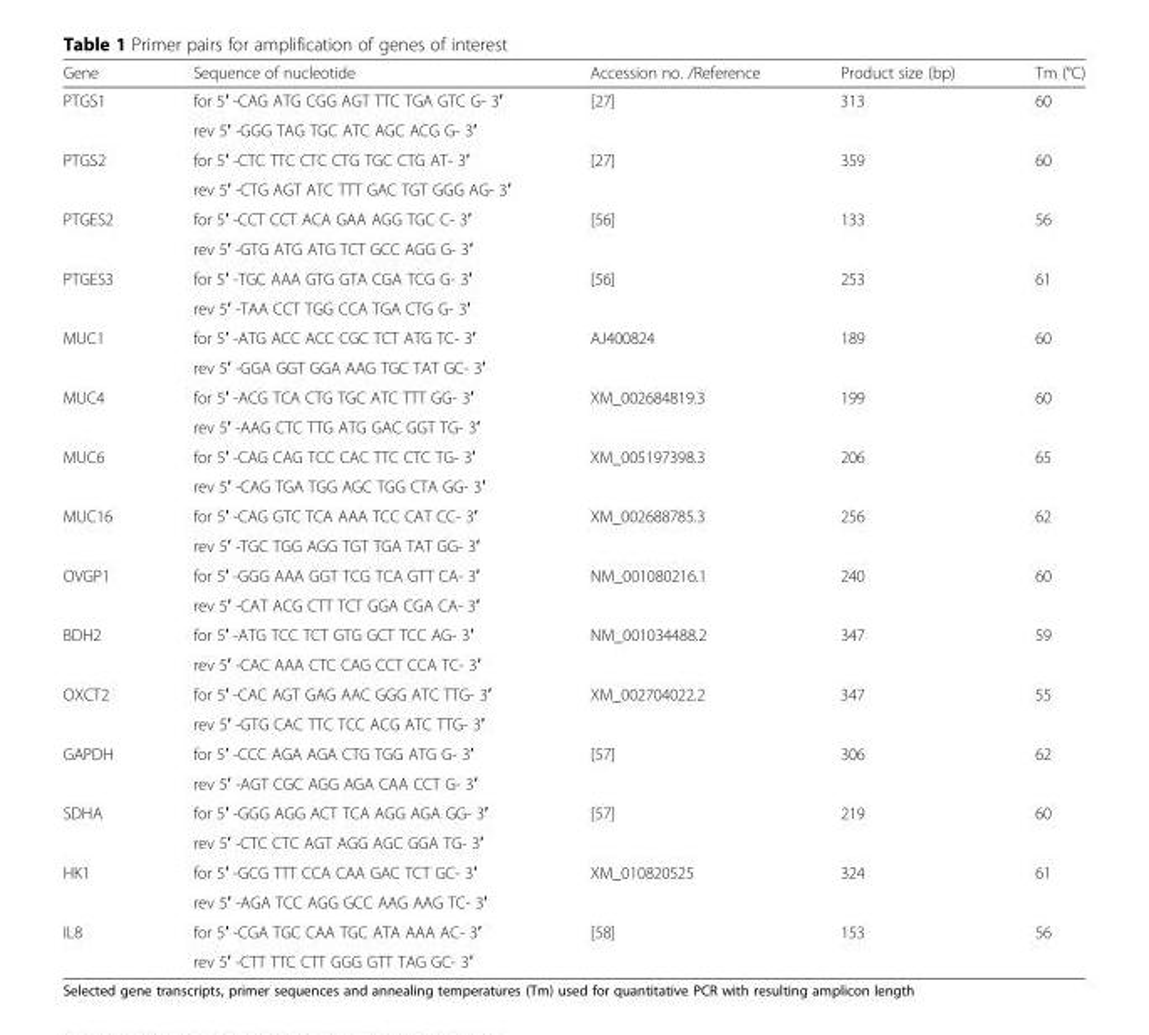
<table><thead><tr><td>Gene</td><td>Sequence of nucleotide</td><td>Accession no. /Reference</td><td>Product size (bp)</td><td>Tm (°C)</td></tr></thead><tbody><tr><td rowspan="2">PTGS1</td><td>for 5′ -CAG ATG CGG AGT TTC TGA GTC G- 3′</td><td rowspan="2">[27]</td><td rowspan="2">313</td><td rowspan="2">60</td></tr><tr><td>rev 5′ -GGG TAG TGC ATC AGC ACG G- 3′</td></tr><tr><td rowspan="2">PTGS2</td><td>for 5′ -CTC TTC CTC CTG TGC CTG AT- 3′</td><td rowspan="2">[27]</td><td rowspan="2">359</td><td rowspan="2">60</td></tr><tr><td>rev 5′ -CTG AGT ATC TTT GAC TGT GGG AG- 3′</td></tr><tr><td rowspan="2">PTGES2</td><td>for 5′ -CCT CCT ACA GAA AGG TGC C- 3′</td><td rowspan="2">[56]</td><td rowspan="2">133</td><td rowspan="2">56</td></tr><tr><td>rev 5′ -GTG ATG ATG TCT GCC AGG G- 3′</td></tr><tr><td rowspan="2">PTGES3</td><td>for 5′ -TGC AAA GTG GTA CGA TCG G- 3′</td><td rowspan="2">[56]</td><td rowspan="2">253</td><td rowspan="2">61</td></tr><tr><td>rev 5′ -TAA CCT TGG CCA TGA CTG G- 3′</td></tr><tr><td rowspan="2">MUC1</td><td>for 5′ -ATG ACC ACC CGC TCT ATG TC- 3′</td><td rowspan="2">AJ400824</td><td rowspan="2">189</td><td rowspan="2">60</td></tr><tr><td>rev 5′ -GGA GGT GGA AAG TGC TAT GC- 3′</td></tr><tr><td rowspan="2">MUC4</td><td>for 5′ -ACG TCA CTG TGC ATC TTT GG- 3′</td><td rowspan="2">XM_002684819.3</td><td rowspan="2">199</td><td rowspan="2">60</td></tr><tr><td>rev 5′ -AAG CTC TTG ATG GAC GGT TG- 3′</td></tr><tr><td rowspan="2">MUC6</td><td>for 5′ -CAG CAG TCC CAC TTC CTC TG- 3′</td><td rowspan="2">XM_005197398.3</td><td rowspan="2">206</td><td rowspan="2">65</td></tr><tr><td>rev 5′ -CAG TGA TGG AGC TGG CTA GG- 3′</td></tr><tr><td rowspan="2">MUC16</td><td>for 5′ -CAG GTC TCA AAA TCC CAT CC- 3′</td><td rowspan="2">XM_002688785.3</td><td rowspan="2">256</td><td rowspan="2">62</td></tr><tr><td>rev 5′ -TGC TGG AGG TGT TGA TAT GG- 3′</td></tr><tr><td rowspan="2">OVGP1</td><td>for 5′ -GGG AAA GGT TCG TCA GTT CA- 3′</td><td rowspan="2">NM_001080216.1</td><td rowspan="2">240</td><td rowspan="2">60</td></tr><tr><td>rev 5′ -CAT ACG CTT TCT GGA CGA CA- 3′</td></tr><tr><td rowspan="2">BDH2</td><td>for 5′ -ATG TCC TCT GTG GCT TCC AG- 3′</td><td rowspan="2">NM_001034488.2</td><td rowspan="2">347</td><td rowspan="2">59</td></tr><tr><td>rev 5′ -CAC AAA CTC CAG CCT CCA TC- 3′</td></tr><tr><td rowspan="2">OXCT2</td><td>for 5′ -CAC AGT GAG AAC GGG ATC TTG- 3′</td><td rowspan="2">XM_002704022.2</td><td rowspan="2">347</td><td rowspan="2">55</td></tr><tr><td>rev 5′ -GTG CAC TTC TCC ACG ATC TTG- 3′</td></tr><tr><td rowspan="2">GAPDH</td><td>for 5′ -CCC AGA AGA CTG TGG ATG G- 3′</td><td rowspan="2">[57]</td><td rowspan="2">306</td><td rowspan="2">62</td></tr><tr><td>rev 5′ -AGT CGC AGG AGA CAA CCT G- 3′</td></tr><tr><td rowspan="2">SDHA</td><td>for 5′ -GGG AGG ACT TCA AGG AGA GG- 3′</td><td rowspan="2">[57]</td><td rowspan="2">219</td><td rowspan="2">60</td></tr><tr><td>rev 5′ -CTC CTC AGT AGG AGC GGA TG- 3′</td></tr><tr><td rowspan="2">HK1</td><td>for 5′ -GCG TTT CCA CAA GAC TCT GC- 3′</td><td rowspan="2">XM_010820525</td><td rowspan="2">324</td><td rowspan="2">61</td></tr><tr><td>rev 5′ -AGA TCC AGG GCC AAG AAG TC- 3′</td></tr><tr><td rowspan="2">IL8</td><td>for 5′ -CGA TGC CAA TGC ATA AAA AC- 3′</td><td rowspan="2">[58]</td><td rowspan="2">153</td><td rowspan="2">56</td></tr><tr><td>rev 5′ -CTT TTC CTT GGG GTT TAG GC- 3′</td></tr></tbody></table>